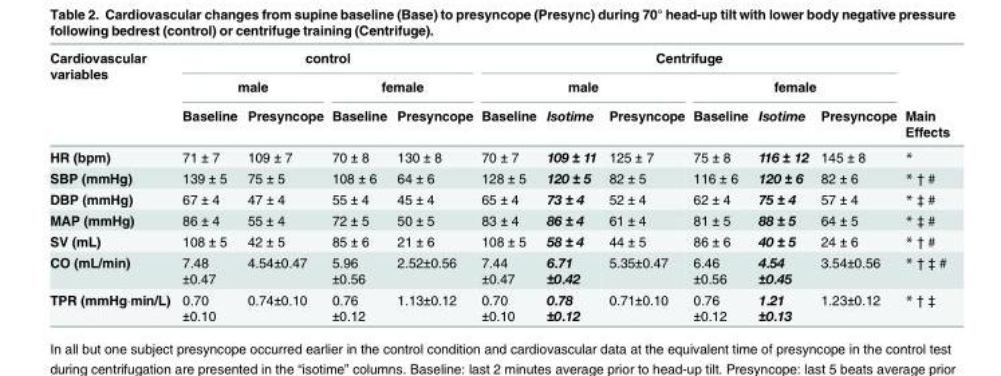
<table><thead><tr><td rowspan="3">Cardiovascular variables</td><td colspan="4">control</td><td colspan="6">Centrifuge</td><td rowspan="3">Main Effects</td></tr><tr><td colspan="2">male</td><td colspan="2">female</td><td colspan="3">male</td><td colspan="3">female</td></tr><tr><td>Baseline</td><td>Presyncope</td><td>Baseline</td><td>Presyncope</td><td>Baseline</td><td>Isotime</td><td>Presyncope</td><td>Baseline</td><td>Isotime</td><td>Presyncope</td></tr></thead><tbody><tr><td>HR (bpm)</td><td>71 ± 7</td><td>109 ± 7</td><td>70 ± 8</td><td>130 ± 8</td><td>70 ± 7</td><td>109 ± 11</td><td>125 ± 7</td><td>75 ± 8</td><td>116 ± 12</td><td>145 ± 8</td><td>*</td></tr><tr><td>SBP (mmHg)</td><td>139 ± 5</td><td>75 ± 5</td><td>108 ± 6</td><td>64 ± 6</td><td>128 ± 5</td><td>120 ± 5</td><td>82 ± 5</td><td>116 ± 6</td><td>120 ± 6</td><td>82 ± 6</td><td>* † #</td></tr><tr><td>DBP (mmHg)</td><td>67 ± 4</td><td>47 ± 4</td><td>55 ± 4</td><td>45 ± 4</td><td>65 ± 4</td><td>73 ± 4</td><td>52 ± 4</td><td>62 ± 4</td><td>75 ± 4</td><td>57 ± 4</td><td>* ‡ #</td></tr><tr><td>MAP (mmHg)</td><td>86 ± 4</td><td>55 ± 4</td><td>72 ± 5</td><td>50 ± 5</td><td>83 ± 4</td><td>86 ± 4</td><td>61 ± 4</td><td>81 ± 5</td><td>88 ± 5</td><td>64 ± 5</td><td>* ‡ #</td></tr><tr><td>SV (mL)</td><td>108 ± 5</td><td>42 ± 5</td><td>85 ± 6</td><td>21 ± 6</td><td>108 ± 5</td><td>58 ± 4</td><td>44 ± 5</td><td>86 ± 6</td><td>40 ± 5</td><td>24 ± 6</td><td>* † #</td></tr><tr><td>CO (mL/min)</td><td>7.48 ±0.47</td><td>4.54±0.47</td><td>5.96 ±0.56</td><td>2.52±0.56</td><td>7.44 ±0.47</td><td>6.71 ±0.42</td><td>5.35±0.47</td><td>6.46 ±0.56</td><td>4.54 ±0.45</td><td>3.54±0.56</td><td>* † ‡ #</td></tr><tr><td>TPR (mmHg·min/L)</td><td>0.70 ±0.10</td><td>0.74±0.10</td><td>0.76 ±0.12</td><td>1.13±0.12</td><td>0.70 ±0.10</td><td>0.78 ±0.12</td><td>0.71±0.10</td><td>0.76 ±0.12</td><td>1.21 ±0.13</td><td>1.23±0.12</td><td>* † ‡</td></tr></tbody></table>